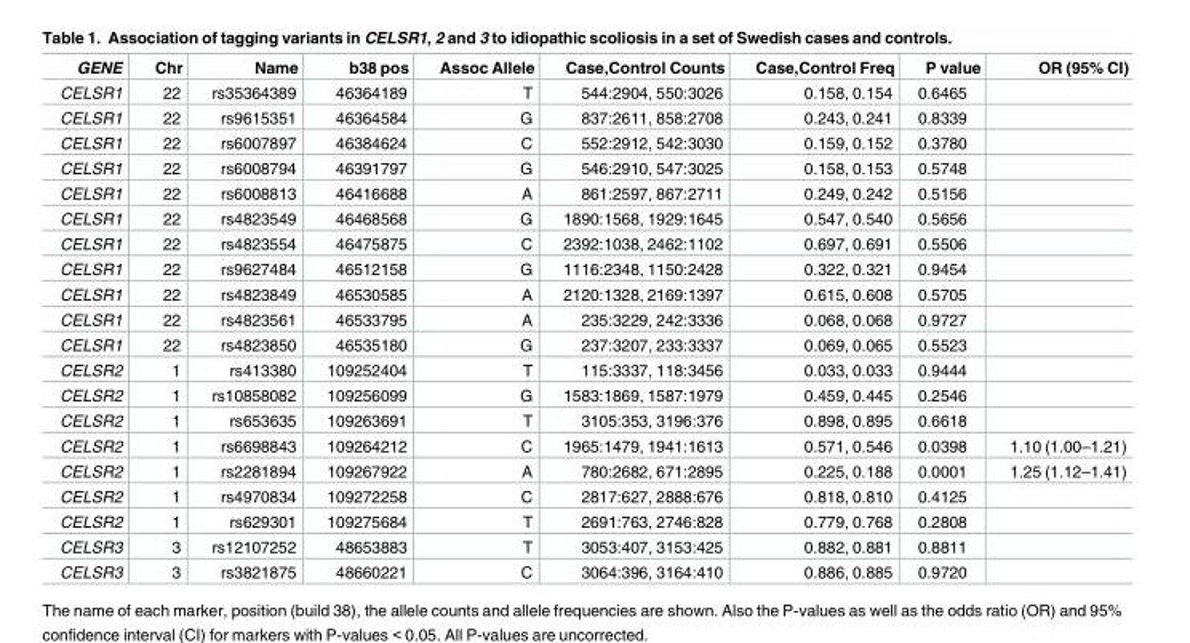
<table><thead><tr><td>GENE</td><td>Chr</td><td>Name</td><td>b38 pos</td><td>Assoc Allele</td><td>Case,Control Counts</td><td>Case,Control Freq</td><td>P value</td><td>OR (95% CI)</td></tr></thead><tbody><tr><td>CELSR1</td><td>22</td><td>rs35364389</td><td>46364189</td><td>T</td><td>544:2904, 550:3026</td><td>0.158, 0.154</td><td>0.6465</td><td></td></tr><tr><td>CELSR1</td><td>22</td><td>rs9615351</td><td>46364584</td><td>G</td><td>837:2611, 858:2708</td><td>0.243, 0.241</td><td>0.8339</td><td></td></tr><tr><td>CELSR1</td><td>22</td><td>rs6007897</td><td>46384624</td><td>C</td><td>552:2912, 542:3030</td><td>0.159, 0.152</td><td>0.3780</td><td></td></tr><tr><td>CELSR1</td><td>22</td><td>rs6008794</td><td>46391797</td><td>G</td><td>546:2910, 547:3025</td><td>0.158, 0.153</td><td>0.5748</td><td></td></tr><tr><td>CELSR1</td><td>22</td><td>rs6008813</td><td>46416688</td><td>A</td><td>861:2597, 867:2711</td><td>0.249, 0.242</td><td>0.5156</td><td></td></tr><tr><td>CELSR1</td><td>22</td><td>rs4823549</td><td>46468568</td><td>G</td><td>1890:1568, 1929:1645</td><td>0.547, 0.540</td><td>0.5656</td><td></td></tr><tr><td>CELSR1</td><td>22</td><td>rs4823554</td><td>46475875</td><td>C</td><td>2392:1038, 2462:1102</td><td>0.697, 0.691</td><td>0.5506</td><td></td></tr><tr><td>CELSR1</td><td>22</td><td>rs9627484</td><td>46512158</td><td>G</td><td>1116:2348, 1150:2428</td><td>0.322, 0.321</td><td>0.9454</td><td></td></tr><tr><td>CELSR1</td><td>22</td><td>rs4823849</td><td>46530585</td><td>A</td><td>2120:1328, 2169:1397</td><td>0.615, 0.608</td><td>0.5705</td><td></td></tr><tr><td>CELSR1</td><td>22</td><td>rs4823561</td><td>46533795</td><td>A</td><td>235:3229, 242:3336</td><td>0.068, 0.068</td><td>0.9727</td><td></td></tr><tr><td>CELSR1</td><td>22</td><td>rs4823850</td><td>46535180</td><td>G</td><td>237:3207, 233:3337</td><td>0.069, 0.065</td><td>0.5523</td><td></td></tr><tr><td>CELSR2</td><td>1</td><td>rs413380</td><td>109252404</td><td>T</td><td>115:3337, 118:3456</td><td>0.033, 0.033</td><td>0.9444</td><td></td></tr><tr><td>CELSR2</td><td>1</td><td>rs10858082</td><td>109256099</td><td>G</td><td>1583:1869, 1587:1979</td><td>0.459, 0.445</td><td>0.2546</td><td></td></tr><tr><td>CELSR2</td><td>1</td><td>rs653635</td><td>109263691</td><td>T</td><td>3105:353, 3196:376</td><td>0.898, 0.895</td><td>0.6618</td><td></td></tr><tr><td>CELSR2</td><td>1</td><td>rs6698843</td><td>109264212</td><td>C</td><td>1965:1479, 1941:1613</td><td>0.571, 0.546</td><td>0.0398</td><td>1.10 (1.00–1.21)</td></tr><tr><td>CELSR2</td><td>1</td><td>rs2281894</td><td>109267922</td><td>A</td><td>780:2682, 671:2895</td><td>0.225, 0.188</td><td>0.0001</td><td>1.25 (1.12–1.41)</td></tr><tr><td>CELSR2</td><td>1</td><td>rs4970834</td><td>109272258</td><td>C</td><td>2817:627, 2888:676</td><td>0.818, 0.810</td><td>0.4125</td><td></td></tr><tr><td>CELSR2</td><td>1</td><td>rs629301</td><td>109275684</td><td>T</td><td>2691:763, 2746:828</td><td>0.779, 0.768</td><td>0.2808</td><td></td></tr><tr><td>CELSR3</td><td>3</td><td>rs12107252</td><td>48653883</td><td>T</td><td>3053:407, 3153:425</td><td>0.882, 0.881</td><td>0.8811</td><td></td></tr><tr><td>CELSR3</td><td>3</td><td>rs3821875</td><td>48660221</td><td>C</td><td>3064:396, 3164:410</td><td>0.886, 0.885</td><td>0.9720</td><td></td></tr></tbody></table>